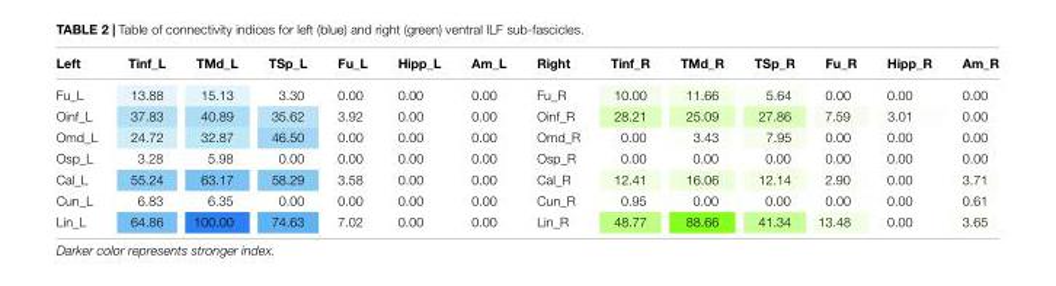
<table><thead><tr><td>Left</td><td>Tinf_L</td><td>TMd_L</td><td>TSp_L</td><td>Fu_L</td><td>Hipp_L</td><td>Am_L</td><td>Right</td><td>Tinf_R</td><td>TMd_R</td><td>TSp_R</td><td>Fu_R</td><td>Hipp_R</td><td>Am_R</td></tr></thead><tbody><tr><td>Fu_L</td><td>13.88</td><td>15.13</td><td>3.30</td><td>0.00</td><td>0.00</td><td>0.00</td><td>Fu_R</td><td>10.00</td><td>11.66</td><td>5.64</td><td>0.00</td><td>0.00</td><td>0.00</td></tr><tr><td>Oinf_L</td><td>37.83</td><td>40.89</td><td>35.62</td><td>3.92</td><td>0.00</td><td>0.00</td><td>Oinf_R</td><td>28.21</td><td>25.09</td><td>27.86</td><td>7.59</td><td>3.01</td><td>0.00</td></tr><tr><td>Omd_L</td><td>24.72</td><td>32.87</td><td>46.50</td><td>0.00</td><td>0.00</td><td>0.00</td><td>Omd_R</td><td>0.00</td><td>3.43</td><td>7.95</td><td>0.00</td><td>0.00</td><td>0.00</td></tr><tr><td>Osp_L</td><td>3.28</td><td>5.98</td><td>0.00</td><td>0.00</td><td>0.00</td><td>0.00</td><td>Osp_R</td><td>0.00</td><td>0.00</td><td>0.00</td><td>0.00</td><td>0.00</td><td>0.00</td></tr><tr><td>Cal_L</td><td>55.24</td><td>63.17</td><td>58.29</td><td>3.58</td><td>0.00</td><td>0.00</td><td>Cal_R</td><td>12.41</td><td>16.06</td><td>12.14</td><td>2.90</td><td>0.00</td><td>3.71</td></tr><tr><td>Cun_L</td><td>6.83</td><td>6.35</td><td>0.00</td><td>0.00</td><td>0.00</td><td>0.00</td><td>Cun_R</td><td>0.95</td><td>0.00</td><td>0.00</td><td>0.00</td><td>0.00</td><td>0.61</td></tr><tr><td>Lin_L</td><td>64.86</td><td>100.00</td><td>74.63</td><td>7.02</td><td>0.00</td><td>0.00</td><td>Lin_R</td><td>48.77</td><td>88.66</td><td>41.34</td><td>13.48</td><td>0.00</td><td>3.65</td></tr></tbody></table>